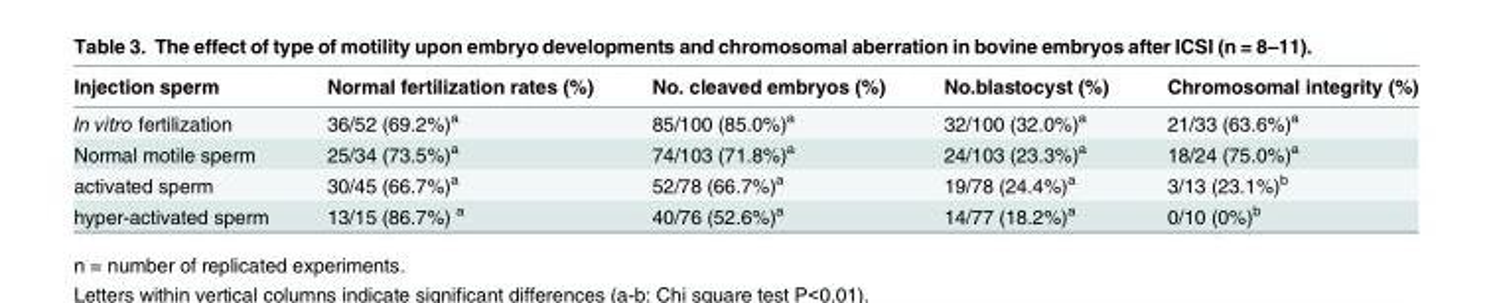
<table><thead><tr><td>Injection sperm</td><td>Normal fertilization rates (%)</td><td>No. cleaved embryos (%)</td><td>No.blastocyst (%)</td><td>Chromosomal integrity (%)</td></tr></thead><tbody><tr><td>In vitro fertilization</td><td>36/52 (69.2%)<sup>a</sup></td><td>85/100 (85.0%)<sup>a</sup></td><td>32/100 (32.0%)<sup>a</sup></td><td>21/33 (63.6%)<sup>a</sup></td></tr><tr><td>Normal motile sperm</td><td>25/34 (73.5%)<sup>a</sup></td><td>74/103 (71.8%)<sup>a</sup></td><td>24/103 (23.3%)<sup>a</sup></td><td>18/24 (75.0%)<sup>a</sup></td></tr><tr><td>activated sperm</td><td>30/45 (66.7%)<sup>a</sup></td><td>52/78 (66.7%)<sup>a</sup></td><td>19/78 (24.4%)<sup>a</sup></td><td>3/13 (23.1%)<sup>b</sup></td></tr><tr><td>hyper-activated sperm</td><td>13/15 (86.7%) <sup>a</sup></td><td>40/76 (52.6%)<sup>a</sup></td><td>14/77 (18.2%)<sup>a</sup></td><td>0/10 (0%)<sup>b</sup></td></tr></tbody></table>